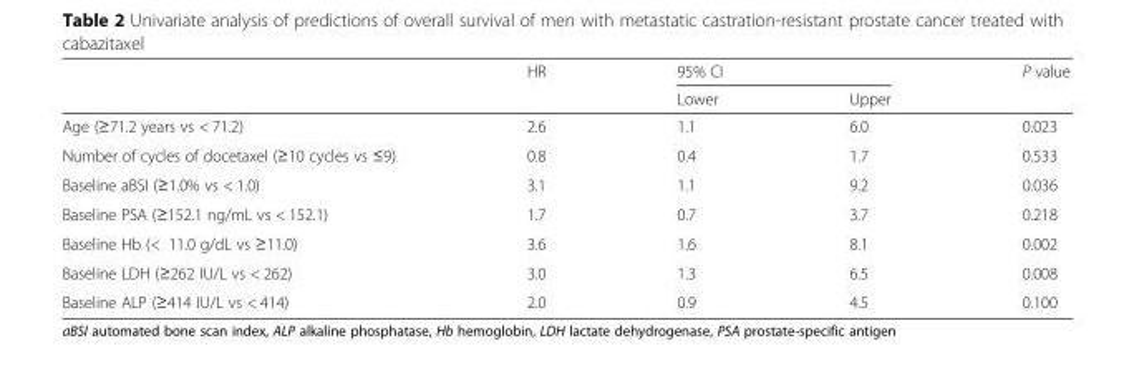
<table><thead><tr><td rowspan="2"></td><td rowspan="2">HR</td><td colspan="2">95% CI</td><td rowspan="2">P value</td></tr><tr><td>Lower</td><td>Upper</td></tr></thead><tbody><tr><td>Age (≥71.2 years vs &lt; 71.2)</td><td>2.6</td><td>1.1</td><td>6.0</td><td>0.023</td></tr><tr><td>Number of cycles of docetaxel (≥10 cycles vs ≤9)</td><td>0.8</td><td>0.4</td><td>1.7</td><td>0.533</td></tr><tr><td>Baseline aBSI (≥1.0% vs &lt; 1.0)</td><td>3.1</td><td>1.1</td><td>9.2</td><td>0.036</td></tr><tr><td>Baseline PSA (≥152.1 ng/mL vs &lt; 152.1)</td><td>1.7</td><td>0.7</td><td>3.7</td><td>0.218</td></tr><tr><td>Baseline Hb (&lt; 11.0 g/dL vs ≥11.0)</td><td>3.6</td><td>1.6</td><td>8.1</td><td>0.002</td></tr><tr><td>Baseline LDH (≥262 IU/L vs &lt; 262)</td><td>3.0</td><td>1.3</td><td>6.5</td><td>0.008</td></tr><tr><td>Baseline ALP (≥414 IU/L vs &lt; 414)</td><td>2.0</td><td>0.9</td><td>4.5</td><td>0.100</td></tr></tbody></table>